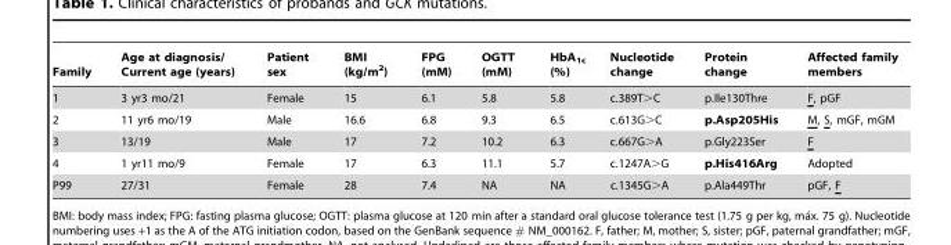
<table><thead><tr><td>Family</td><td>Age at diagnosis/ Current age (years)</td><td>Patient sex</td><td>BMI (kg/m<sup>2</sup>)</td><td>FPG (mM)</td><td>OGTT (mM)</td><td>HbA<sub>1c</sub> (%)</td><td>Nucleotide change</td><td>Protein change</td><td>Affected family members</td></tr></thead><tbody><tr><td>1</td><td>3 yr3 mo/21</td><td>Female</td><td>15</td><td>6.1</td><td>5.8</td><td>5.8</td><td>c.389T&gt;C</td><td>p.Ile130Thre</td><td>F, pGF</td></tr><tr><td>2</td><td>11 yr6 mo/19</td><td>Male</td><td>16.6</td><td>6.8</td><td>9.3</td><td>6.5</td><td>c.613G&gt;C</td><td>p.Asp205His</td><td>M, S, mGF, mGM</td></tr><tr><td>3</td><td>13/19</td><td>Male</td><td>17</td><td>7.2</td><td>10.2</td><td>6.3</td><td>c.667G&gt;A</td><td>p.Gly223Ser</td><td>F</td></tr><tr><td>4</td><td>1 yr11 mo/9</td><td>Female</td><td>17</td><td>6.3</td><td>11.1</td><td>5.7</td><td>c.1247A&gt;G</td><td>p.His416Arg</td><td>Adopted</td></tr><tr><td>P99</td><td>27/31</td><td>Female</td><td>28</td><td>7.4</td><td>NA</td><td>NA</td><td>c.1345G&gt;A</td><td>p.Ala449Thr</td><td>pGF, F</td></tr></tbody></table>